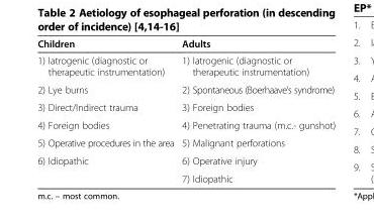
<table><thead><tr><td>Children</td><td>Adults</td></tr></thead><tbody><tr><td>1) Iatrogenic (diagnostic or therapeutic instrumentation)</td><td>1) Iatrogenic (diagnostic or therapeutic instrumentation)</td></tr><tr><td>2) Lye burns</td><td>2) Spontaneous (Boerhaave’s syndrome)</td></tr><tr><td>3) Direct/Indirect trauma</td><td>3) Foreign bodies</td></tr><tr><td>4) Foreign bodies</td><td>4) Penetrating trauma (m.c.- gunshot)</td></tr><tr><td>5) Operative procedures in the area</td><td>5) Malignant perforations</td></tr><tr><td rowspan="2">6) Idiopathic</td><td>6) Operative injury</td></tr><tr><td>7) Idiopathic</td></tr></tbody></table>